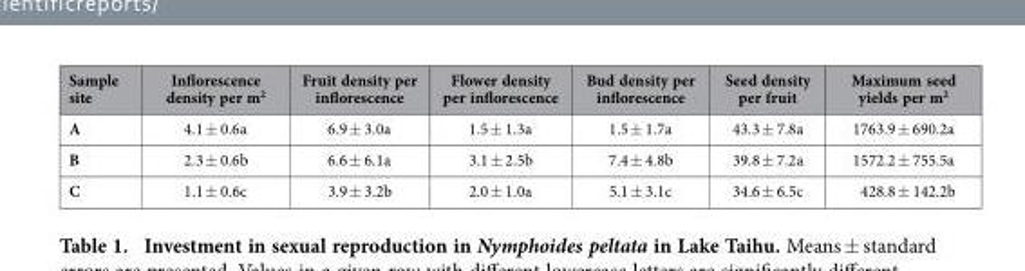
<table><thead><tr><td>Sample site</td><td>Inflorescence density per m<sup>2</sup></td><td>Fruit density per inflorescence</td><td>Flower density per inflorescence</td><td>Bud density per inflorescence</td><td>Seed density per fruit</td><td>Maximum seed yields per m<sup>2</sup></td></tr></thead><tbody><tr><td>A</td><td>4.1 ± 0.6a</td><td>6.9 ± 3.0a</td><td>1.5 ± 1.3a</td><td>1.5 ± 1.7a</td><td>43.3 ± 7.8a</td><td>1763.9 ± 690.2a</td></tr><tr><td>B</td><td>2.3 ± 0.6b</td><td>6.6 ± 6.1a</td><td>3.1 ± 2.5b</td><td>7.4 ± 4.8b</td><td>39.8 ± 7.2a</td><td>1572.2 ± 755.5a</td></tr><tr><td>C</td><td>1.1 ± 0.6c</td><td>3.9 ± 3.2b</td><td>2.0 ± 1.0a</td><td>5.1 ± 3.1c</td><td>34.6 ± 6.5c</td><td>428.8 ± 142.2b</td></tr></tbody></table>